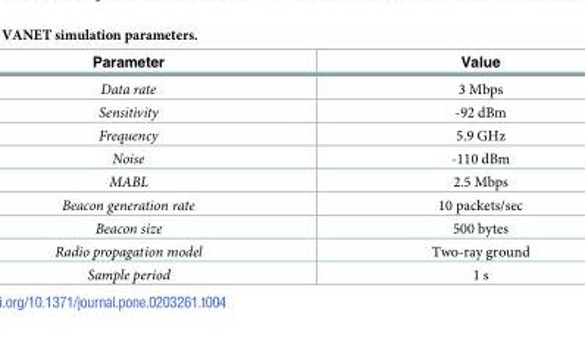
<table><thead><tr><td>Parameter</td><td>Value</td></tr></thead><tbody><tr><td>Data rate</td><td>3 Mbps</td></tr><tr><td>Sensitivity</td><td>-92 dBm</td></tr><tr><td>Frequency</td><td>5.9 GHz</td></tr><tr><td>Noise</td><td>-110 dBm</td></tr><tr><td>MABL</td><td>2.5 Mbps</td></tr><tr><td>Beacon generation rate</td><td>10 packets/sec</td></tr><tr><td>Beacon size</td><td>500 bytes</td></tr><tr><td>Radio propagation model</td><td>Two-ray ground</td></tr><tr><td>Sample period</td><td>1 s</td></tr></tbody></table>